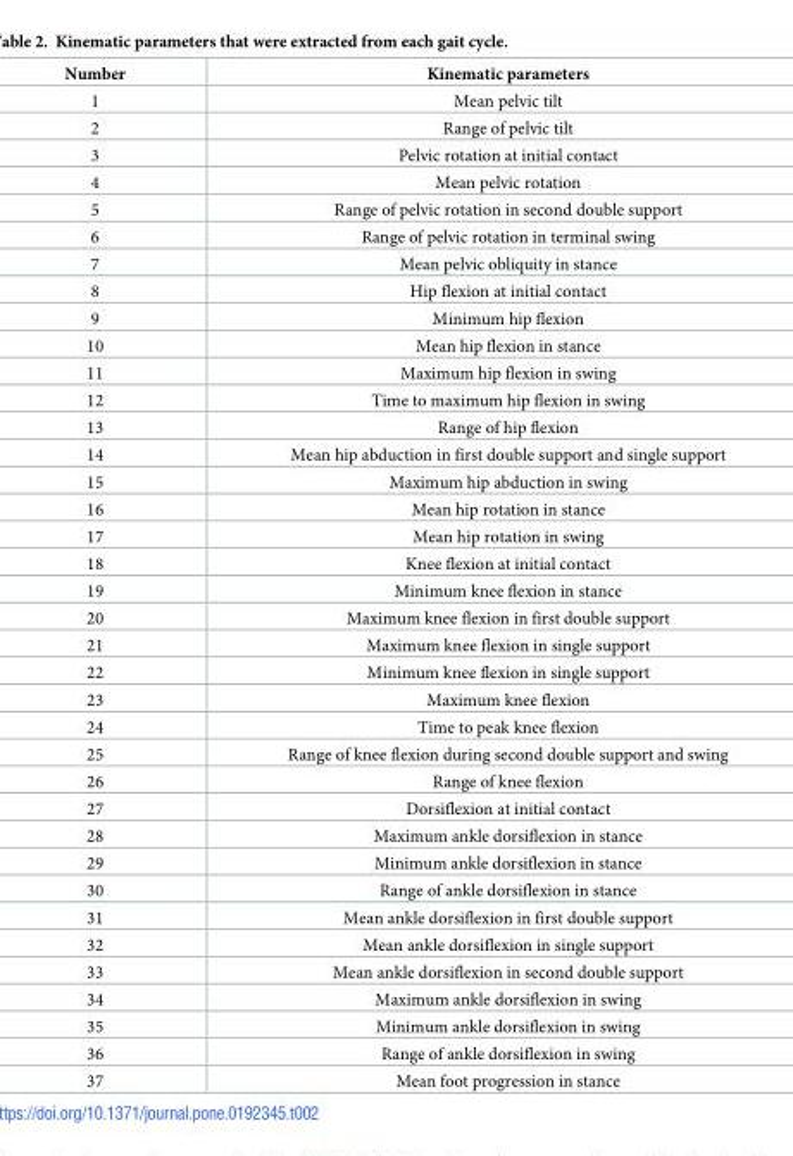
<table><thead><tr><td>Number</td><td>Kinematic parameters</td></tr></thead><tbody><tr><td>1</td><td>Mean pelvic tilt</td></tr><tr><td>2</td><td>Range of pelvic tilt</td></tr><tr><td>3</td><td>Pelvic rotation at initial contact</td></tr><tr><td>4</td><td>Mean pelvic rotation</td></tr><tr><td>5</td><td>Range of pelvic rotation in second double support</td></tr><tr><td>6</td><td>Range of pelvic rotation in terminal swing</td></tr><tr><td>7</td><td>Mean pelvic obliquity in stance</td></tr><tr><td>8</td><td>Hip flexion at initial contact</td></tr><tr><td>9</td><td>Minimum hip flexion</td></tr><tr><td>10</td><td>Mean hip flexion in stance</td></tr><tr><td>11</td><td>Maximum hip flexion in swing</td></tr><tr><td>12</td><td>Time to maximum hip flexion in swing</td></tr><tr><td>13</td><td>Range of hip flexion</td></tr><tr><td>14</td><td>Mean hip abduction in first double support and single support</td></tr><tr><td>15</td><td>Maximum hip abduction in swing</td></tr><tr><td>16</td><td>Mean hip rotation in stance</td></tr><tr><td>17</td><td>Mean hip rotation in swing</td></tr><tr><td>18</td><td>Knee flexion at initial contact</td></tr><tr><td>19</td><td>Minimum knee flexion in stance</td></tr><tr><td>20</td><td>Maximum knee flexion in first double support</td></tr><tr><td>21</td><td>Maximum knee flexion in single support</td></tr><tr><td>22</td><td>Minimum knee flexion in single support</td></tr><tr><td>23</td><td>Maximum knee flexion</td></tr><tr><td>24</td><td>Time to peak knee flexion</td></tr><tr><td>25</td><td>Range of knee flexion during second double support and swing</td></tr><tr><td>26</td><td>Range of knee flexion</td></tr><tr><td>27</td><td>Dorsiflexion at initial contact</td></tr><tr><td>28</td><td>Maximum ankle dorsiflexion in stance</td></tr><tr><td>29</td><td>Minimum ankle dorsiflexion in stance</td></tr><tr><td>30</td><td>Range of ankle dorsiflexion in stance</td></tr><tr><td>31</td><td>Mean ankle dorsiflexion in first double support</td></tr><tr><td>32</td><td>Mean ankle dorsiflexion in single support</td></tr><tr><td>33</td><td>Mean ankle dorsiflexion in second double support</td></tr><tr><td>34</td><td>Maximum ankle dorsiflexion in swing</td></tr><tr><td>35</td><td>Minimum ankle dorsiflexion in swing</td></tr><tr><td>36</td><td>Range of ankle dorsiflexion in swing</td></tr><tr><td>37</td><td>Mean foot progression in stance</td></tr></tbody></table>